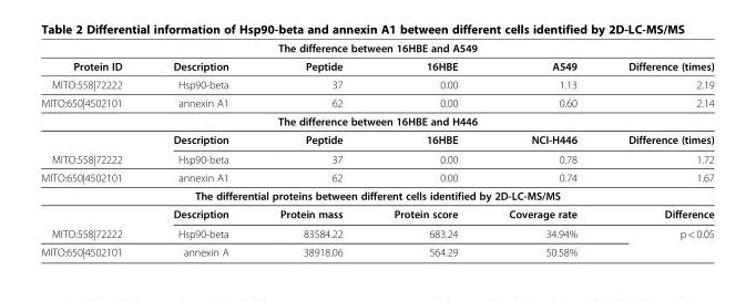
<table><thead><tr><td colspan="6">The difference between 16HBE and A549</td></tr><tr><td>Protein ID</td><td>Description</td><td>Peptide</td><td>16HBE</td><td>A549</td><td>Difference (times)</td></tr></thead><tbody><tr><td>MITO:558|72222</td><td>Hsp90-beta</td><td>37</td><td>0.00</td><td>1.13</td><td>2.19</td></tr><tr><td>MITO:650|4502101</td><td>annexin A1</td><td>62</td><td>0.00</td><td>0.60</td><td>2.14</td></tr><tr><td colspan="6">The difference between 16HBE and H446</td></tr><tr><td rowspan="2">MITO:558|72222</td><td>Description</td><td>Peptide</td><td>16HBE</td><td>NCI-H446</td><td>Difference (times)</td></tr><tr><td>Hsp90-beta</td><td>37</td><td>0.00</td><td>0.78</td><td>1.72</td></tr><tr><td>MITO:650|4502101</td><td>annexin A1</td><td>62</td><td>0.00</td><td>0.74</td><td>1.67</td></tr><tr><td colspan="6">The differential proteins between different cells identified by 2D-LC-MS/MS</td></tr><tr><td rowspan="2">MITO:558|72222</td><td>Description</td><td>Protein mass</td><td>Protein score</td><td>Coverage rate</td><td>Difference</td></tr><tr><td>Hsp90-beta</td><td>83584.22</td><td>683.24</td><td>34.94%</td><td rowspan="2">p &lt; 0.05</td></tr><tr><td>MITO:650|4502101</td><td>annexin A</td><td>38918.06</td><td>564.29</td><td>50.58%</td></tr></tbody></table>